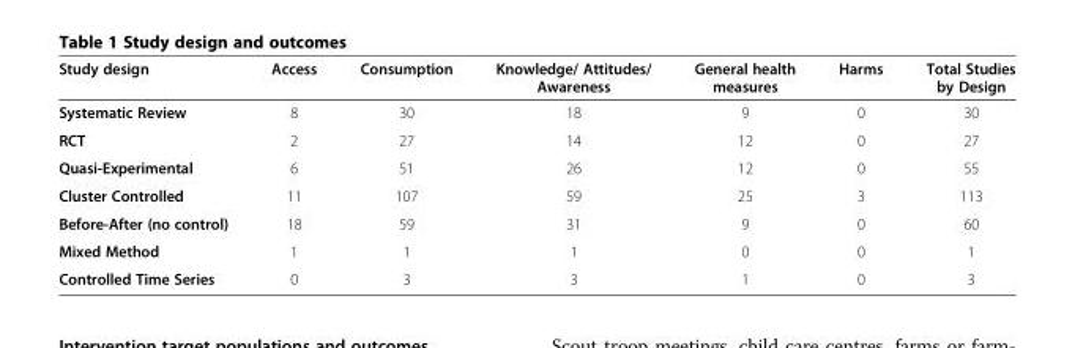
<table><thead><tr><td>Study design</td><td>Access</td><td>Consumption</td><td>Knowledge/ Attitudes/ Awareness</td><td>General health measures</td><td>Harms</td><td>Total Studies by Design</td></tr></thead><tbody><tr><td>Systematic Review</td><td>8</td><td>30</td><td>18</td><td>9</td><td>0</td><td>30</td></tr><tr><td>RCT</td><td>2</td><td>27</td><td>14</td><td>12</td><td>0</td><td>27</td></tr><tr><td>Quasi-Experimental</td><td>6</td><td>51</td><td>26</td><td>12</td><td>0</td><td>55</td></tr><tr><td>Cluster Controlled</td><td>11</td><td>107</td><td>59</td><td>25</td><td>3</td><td>113</td></tr><tr><td>Before-After (no control)</td><td>18</td><td>59</td><td>31</td><td>9</td><td>0</td><td>60</td></tr><tr><td>Mixed Method</td><td>1</td><td>1</td><td>1</td><td>0</td><td>0</td><td>1</td></tr><tr><td>Controlled Time Series</td><td>0</td><td>3</td><td>3</td><td>1</td><td>0</td><td>3</td></tr></tbody></table>